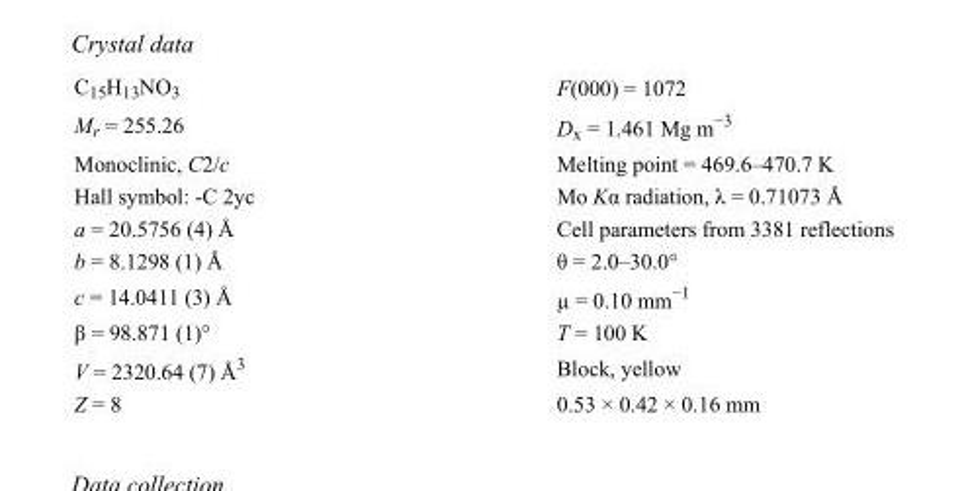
<table><tbody><tr><td>C<sub>15</sub>H<sub>13</sub>NO<sub>3</sub></td><td>F(000) = 1072</td></tr><tr><td>M<sub>r</sub> = 255.26</td><td>D<sub>x</sub> = 1.461 Mg m<sup>−3</sup></td></tr><tr><td>Monoclinic, C2/c</td><td>Melting point = 469.6–470.7 K</td></tr><tr><td>Hall symbol: -C 2yc</td><td>Mo Kα radiation, λ = 0.71073 Å</td></tr><tr><td>a = 20.5756 (4) Å</td><td>Cell parameters from 3381 reflections</td></tr><tr><td>b = 8.1298 (1) Å</td><td>θ = 2.0–30.0°</td></tr><tr><td>c = 14.0411 (3) Å</td><td>µ = 0.10 mm<sup>−1</sup></td></tr><tr><td>β = 98.871 (1)°</td><td>T = 100 K</td></tr><tr><td>V = 2320.64 (7) Å<sup>3</sup></td><td>Block, yellow</td></tr><tr><td>Z = 8</td><td>0.53 × 0.42 × 0.16 mm</td></tr></tbody></table>